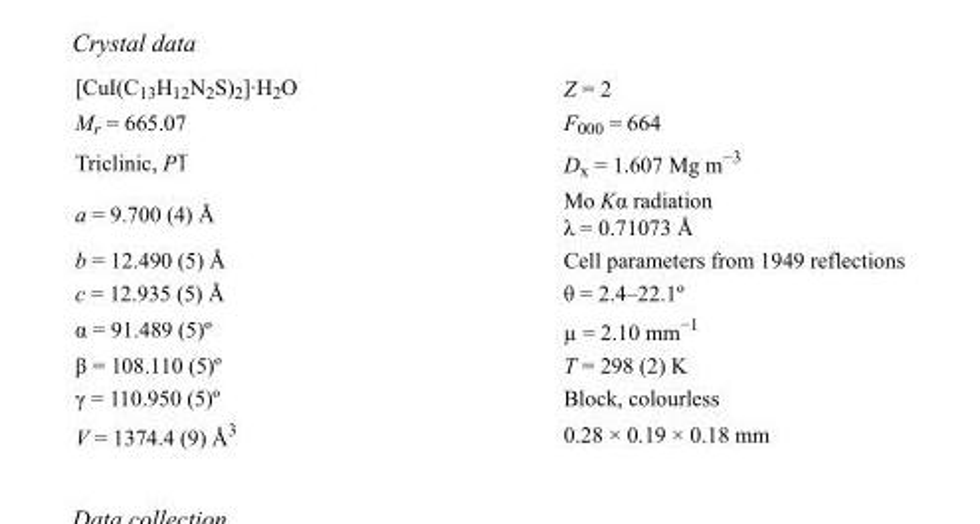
<table><tbody><tr><td>[CuI(C<sub>13</sub>H<sub>12</sub>N<sub>2</sub>S)<sub>2</sub>]·H<sub>2</sub>O</td><td>Z = 2</td></tr><tr><td>M<sub>r</sub> = 665.07</td><td>F<sub>000</sub> = 664</td></tr><tr><td>Triclinic, P1</td><td>D<sub>x</sub> = 1.607 Mg m<sup>−3</sup></td></tr><tr><td>a = 9.700 (4) Å</td><td>Mo Kα radiation λ = 0.71073 Å</td></tr><tr><td>b = 12.490 (5) Å</td><td>Cell parameters from 1949 reflections</td></tr><tr><td>c = 12.935 (5) Å</td><td>θ = 2.4–22.1º</td></tr><tr><td>α = 91.489 (5)º</td><td>µ = 2.10 mm<sup>−1</sup></td></tr><tr><td>β = 108.110 (5)º</td><td>T = 298 (2) K</td></tr><tr><td>γ = 110.950 (5)º</td><td>Block, colourless</td></tr><tr><td>V = 1374.4 (9) Å<sup>3</sup></td><td>0.28 × 0.19 × 0.18 mm</td></tr></tbody></table>